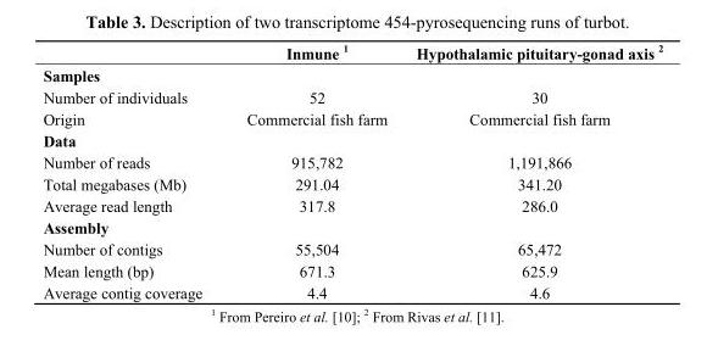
<table><thead><tr><td></td><td>Inmune 1</td><td>Hypothalamic pituitary-gonad axis 2</td></tr></thead><tbody><tr><td colspan="3">Samples</td></tr><tr><td>Number of individuals</td><td>52</td><td>30</td></tr><tr><td>Origin</td><td>Commercial fish farm</td><td>Commercial fish farm</td></tr><tr><td colspan="3">Data</td></tr><tr><td>Number of reads</td><td>915,782</td><td>1,191,866</td></tr><tr><td>Total megabases (Mb)</td><td>291.04</td><td>341.20</td></tr><tr><td>Average read length</td><td>317.8</td><td>286.0</td></tr><tr><td colspan="3">Assembly</td></tr><tr><td>Number of contigs</td><td>55,504</td><td>65,472</td></tr><tr><td>Mean length (bp)</td><td>671.3</td><td>625.9</td></tr><tr><td>Average contig coverage</td><td>4.4</td><td>4.6</td></tr></tbody></table>